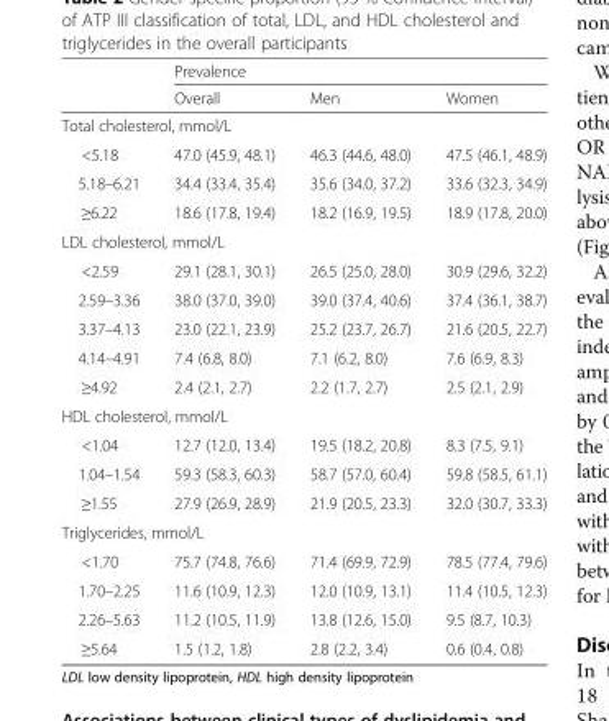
<table><thead><tr><td rowspan="2"></td><td colspan="3">Prevalence</td></tr><tr><td>Overall</td><td>Men</td><td>Women</td></tr></thead><tbody><tr><td colspan="4">Total cholesterol, mmol/L</td></tr><tr><td>&lt;5.18</td><td>47.0 (45.9, 48.1)</td><td>46.3 (44.6, 48.0)</td><td>47.5 (46.1, 48.9)</td></tr><tr><td>5.18–6.21</td><td>34.4 (33.4, 35.4)</td><td>35.6 (34.0, 37.2)</td><td>33.6 (32.3, 34.9)</td></tr><tr><td>≥6.22</td><td>18.6 (17.8, 19.4)</td><td>18.2 (16.9, 19.5)</td><td>18.9 (17.8, 20.0)</td></tr><tr><td colspan="4">LDL cholesterol, mmol/L</td></tr><tr><td>&lt;2.59</td><td>29.1 (28.1, 30.1)</td><td>26.5 (25.0, 28.0)</td><td>30.9 (29.6, 32.2)</td></tr><tr><td>2.59–3.36</td><td>38.0 (37.0, 39.0)</td><td>39.0 (37.4, 40.6)</td><td>37.4 (36.1, 38.7)</td></tr><tr><td>3.37–4.13</td><td>23.0 (22.1, 23.9)</td><td>25.2 (23.7, 26.7)</td><td>21.6 (20.5, 22.7)</td></tr><tr><td>4.14–4.91</td><td>7.4 (6.8, 8.0)</td><td>7.1 (6.2, 8.0)</td><td>7.6 (6.9, 8.3)</td></tr><tr><td>≥4.92</td><td>2.4 (2.1, 2.7)</td><td>2.2 (1.7, 2.7)</td><td>2.5 (2.1, 2.9)</td></tr><tr><td colspan="4">HDL cholesterol, mmol/L</td></tr><tr><td>&lt;1.04</td><td>12.7 (12.0, 13.4)</td><td>19.5 (18.2, 20.8)</td><td>8.3 (7.5, 9.1)</td></tr><tr><td>1.04–1.54</td><td>59.3 (58.3, 60.3)</td><td>58.7 (57.0, 60.4)</td><td>59.8 (58.5, 61.1)</td></tr><tr><td>≥1.55</td><td>27.9 (26.9, 28.9)</td><td>21.9 (20.5, 23.3)</td><td>32.0 (30.7, 33.3)</td></tr><tr><td colspan="4">Triglycerides, mmol/L</td></tr><tr><td>&lt;1.70</td><td>75.7 (74.8, 76.6)</td><td>71.4 (69.9, 72.9)</td><td>78.5 (77.4, 79.6)</td></tr><tr><td>1.70–2.25</td><td>11.6 (10.9, 12.3)</td><td>12.0 (10.9, 13.1)</td><td>11.4 (10.5, 12.3)</td></tr><tr><td>2.26–5.63</td><td>11.2 (10.5, 11.9)</td><td>13.8 (12.6, 15.0)</td><td>9.5 (8.7, 10.3)</td></tr><tr><td>≥5.64</td><td>1.5 (1.2, 1.8)</td><td>2.8 (2.2, 3.4)</td><td>0.6 (0.4, 0.8)</td></tr></tbody></table>